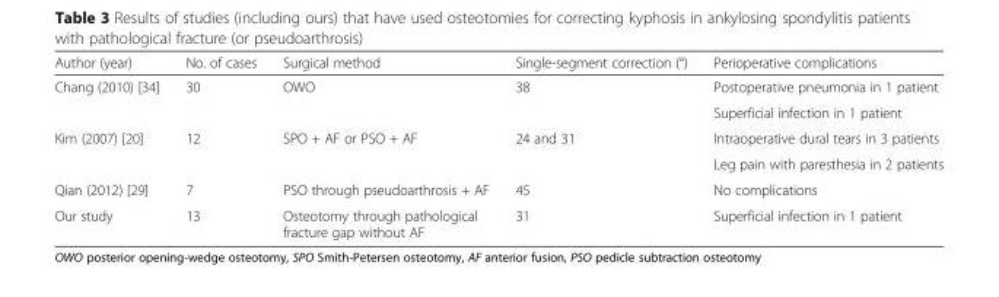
<table><thead><tr><td>Author (year)</td><td>No. of cases</td><td>Surgical method</td><td>Single-segment correction (°)</td><td>Perioperative complications</td></tr></thead><tbody><tr><td rowspan="2">Chang (2010) [34]</td><td rowspan="2">30</td><td rowspan="2">OWO</td><td rowspan="2">38</td><td>Postoperative pneumonia in 1 patient</td></tr><tr><td>Superficial infection in 1 patient</td></tr><tr><td rowspan="2">Kim (2007) [20]</td><td rowspan="2">12</td><td rowspan="2">SPO + AF or PSO + AF</td><td rowspan="2">24 and 31</td><td>Intraoperative dural tears in 3 patients</td></tr><tr><td>Leg pain with paresthesia in 2 patients</td></tr><tr><td>Qian (2012) [29]</td><td>7</td><td>PSO through pseudoarthrosis + AF</td><td>45</td><td>No complications</td></tr><tr><td>Our study</td><td>13</td><td>Osteotomy through pathological fracture gap without AF</td><td>31</td><td>Superficial infection in 1 patient</td></tr></tbody></table>